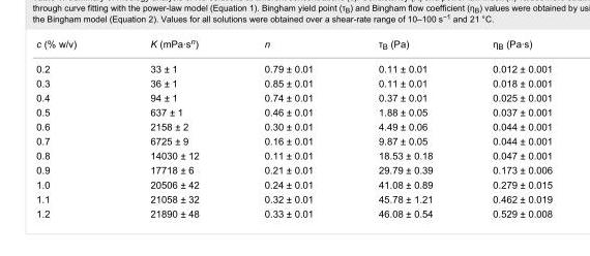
<table><tbody><tr><td>c (% w/v)</td><td>K (mPa·s<sup>n</sup>)</td><td>n</td><td>τ<sub>B</sub> (Pa)</td><td>η<sub>B</sub> (Pa·s)</td></tr><tr><td>0.2</td><td>33 ± 1</td><td>0.79 ± 0.01</td><td>0.11 ± 0.01</td><td>0.012 ± 0.001</td></tr><tr><td>0.3</td><td>36 ± 1</td><td>0.85 ± 0.01</td><td>0.11 ± 0.01</td><td>0.018 ± 0.001</td></tr><tr><td>0.4</td><td>94 ± 1</td><td>0.74 ± 0.01</td><td>0.37 ± 0.01</td><td>0.025 ± 0.001</td></tr><tr><td>0.5</td><td>637 ± 1</td><td>0.46 ± 0.01</td><td>1.88 ± 0.05</td><td>0.037 ± 0.001</td></tr><tr><td>0.6</td><td>2158 ± 2</td><td>0.30 ± 0.01</td><td>4.49 ± 0.06</td><td>0.044 ± 0.001</td></tr><tr><td>0.7</td><td>6725 ± 9</td><td>0.16 ± 0.01</td><td>9.87 ± 0.05</td><td>0.044 ± 0.001</td></tr><tr><td>0.8</td><td>14030 ± 12</td><td>0.11 ± 0.01</td><td>18.53 ± 0.18</td><td>0.047 ± 0.001</td></tr><tr><td>0.9</td><td>17718 ± 6</td><td>0.21 ± 0.01</td><td>29.79 ± 0.39</td><td>0.173 ± 0.006</td></tr><tr><td>1.0</td><td>20506 ± 42</td><td>0.24 ± 0.01</td><td>41.08 ± 0.89</td><td>0.279 ± 0.015</td></tr><tr><td>1.1</td><td>21058 ± 32</td><td>0.32 ± 0.01</td><td>45.78 ± 1.21</td><td>0.462 ± 0.019</td></tr><tr><td>1.2</td><td>21890 ± 48</td><td>0.33 ± 0.01</td><td>46.08 ± 0.54</td><td>0.529 ± 0.008</td></tr></tbody></table>